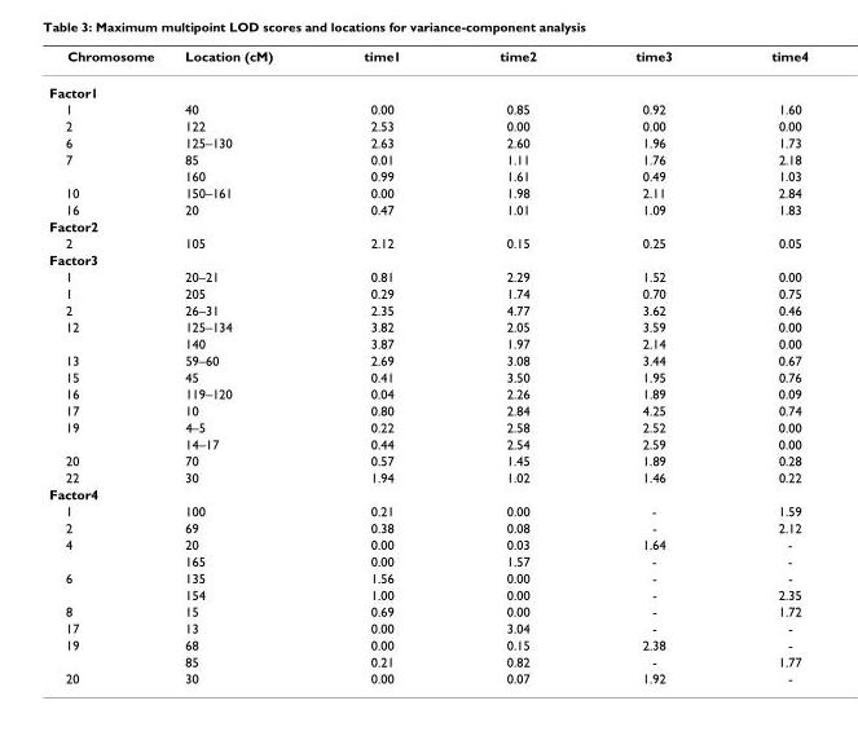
<table><thead><tr><td>Chromosome</td><td>Location (cM)</td><td>time1</td><td>time2</td><td>time3</td><td>time4</td></tr></thead><tbody><tr><td colspan="6">Factor1</td></tr><tr><td>1</td><td>40</td><td>0.00</td><td>0.85</td><td>0.92</td><td>1.60</td></tr><tr><td>2</td><td>122</td><td>2.53</td><td>0.00</td><td>0.00</td><td>0.00</td></tr><tr><td>6</td><td>125–130</td><td>2.63</td><td>2.60</td><td>1.96</td><td>1.73</td></tr><tr><td rowspan="2">7</td><td>85</td><td>0.01</td><td>1.11</td><td>1.76</td><td>2.18</td></tr><tr><td>160</td><td>0.99</td><td>1.61</td><td>0.49</td><td>1.03</td></tr><tr><td>10</td><td>150–161</td><td>0.00</td><td>1.98</td><td>2.11</td><td>2.84</td></tr><tr><td>16</td><td>20</td><td>0.47</td><td>1.01</td><td>1.09</td><td>1.83</td></tr><tr><td colspan="6">Factor2</td></tr><tr><td>2</td><td>105</td><td>2.12</td><td>0.15</td><td>0.25</td><td>0.05</td></tr><tr><td colspan="6">Factor3</td></tr><tr><td>1</td><td>20–21</td><td>0.81</td><td>2.29</td><td>1.52</td><td>0.00</td></tr><tr><td>1</td><td>205</td><td>0.29</td><td>1.74</td><td>0.70</td><td>0.75</td></tr><tr><td>2</td><td>26–31</td><td>2.35</td><td>4.77</td><td>3.62</td><td>0.46</td></tr><tr><td rowspan="2">12</td><td>125–134</td><td>3.82</td><td>2.05</td><td>3.59</td><td>0.00</td></tr><tr><td>140</td><td>3.87</td><td>1.97</td><td>2.14</td><td>0.00</td></tr><tr><td>13</td><td>59–60</td><td>2.69</td><td>3.08</td><td>3.44</td><td>0.67</td></tr><tr><td>15</td><td>45</td><td>0.41</td><td>3.50</td><td>1.95</td><td>0.76</td></tr><tr><td>16</td><td>119–120</td><td>0.04</td><td>2.26</td><td>1.89</td><td>0.09</td></tr><tr><td>17</td><td>10</td><td>0.80</td><td>2.84</td><td>4.25</td><td>0.74</td></tr><tr><td rowspan="2">19</td><td>4–5</td><td>0.22</td><td>2.58</td><td>2.52</td><td>0.00</td></tr><tr><td>14–17</td><td>0.44</td><td>2.54</td><td>2.59</td><td>0.00</td></tr><tr><td>20</td><td>70</td><td>0.57</td><td>1.45</td><td>1.89</td><td>0.28</td></tr><tr><td>22</td><td>30</td><td>1.94</td><td>1.02</td><td>1.46</td><td>0.22</td></tr><tr><td colspan="6">Factor4</td></tr><tr><td>1</td><td>100</td><td>0.21</td><td>0.00</td><td>-</td><td>1.59</td></tr><tr><td>2</td><td>69</td><td>0.38</td><td>0.08</td><td>-</td><td>2.12</td></tr><tr><td rowspan="2">4</td><td>20</td><td>0.00</td><td>0.03</td><td>1.64</td><td>-</td></tr><tr><td>165</td><td>0.00</td><td>1.57</td><td>-</td><td>-</td></tr><tr><td rowspan="2">6</td><td>135</td><td>1.56</td><td>0.00</td><td>-</td><td>-</td></tr><tr><td>154</td><td>1.00</td><td>0.00</td><td>-</td><td>2.35</td></tr><tr><td>8</td><td>15</td><td>0.69</td><td>0.00</td><td>-</td><td>1.72</td></tr><tr><td>17</td><td>13</td><td>0.00</td><td>3.04</td><td>-</td><td>-</td></tr><tr><td rowspan="2">19</td><td>68</td><td>0.00</td><td>0.15</td><td>2.38</td><td>-</td></tr><tr><td>85</td><td>0.21</td><td>0.82</td><td>-</td><td>1.77</td></tr><tr><td>20</td><td>30</td><td>0.00</td><td>0.07</td><td>1.92</td><td>-</td></tr></tbody></table>